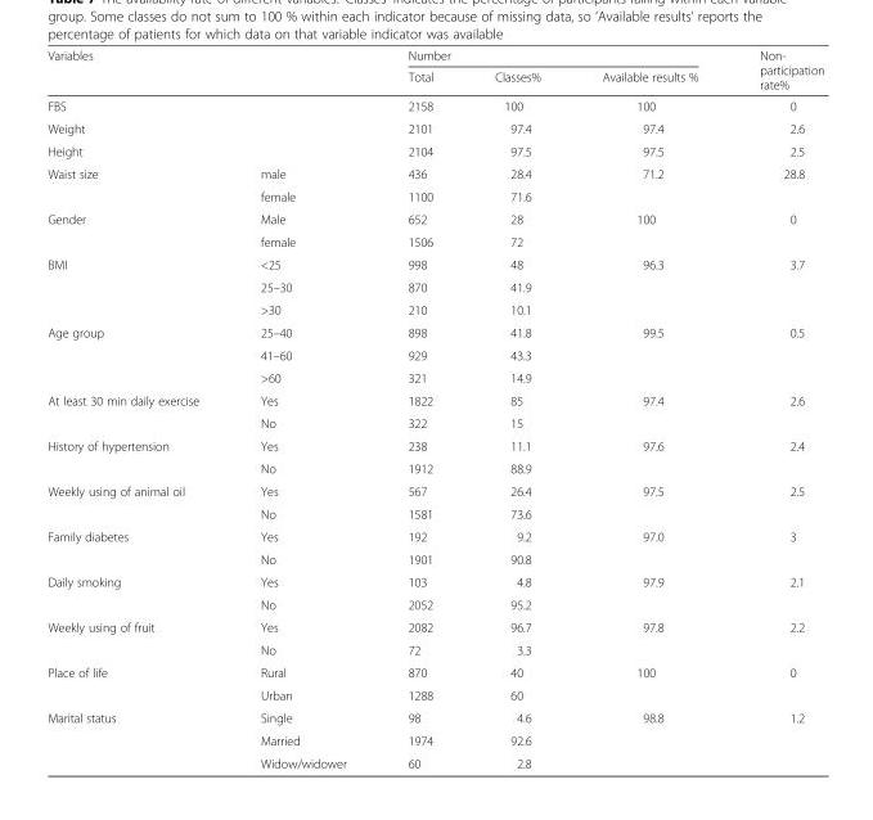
<table><thead><tr><td rowspan="2" colspan="2">Variables</td><td colspan="3">Number</td><td rowspan="2">Non- participation rate%</td></tr><tr><td>Total</td><td>Classes%</td><td>Available results %</td></tr></thead><tbody><tr><td colspan="2">FBS</td><td>2158</td><td>100</td><td>100</td><td>0</td></tr><tr><td colspan="2">Weight</td><td>2101</td><td>97.4</td><td>97.4</td><td>2.6</td></tr><tr><td colspan="2">Height</td><td>2104</td><td>97.5</td><td>97.5</td><td>2.5</td></tr><tr><td rowspan="2">Waist size</td><td>male</td><td>436</td><td>28.4</td><td rowspan="2">71.2</td><td rowspan="2">28.8</td></tr><tr><td>female</td><td>1100</td><td>71.6</td></tr><tr><td rowspan="2">Gender</td><td>Male</td><td>652</td><td>28</td><td rowspan="2">100</td><td rowspan="2">0</td></tr><tr><td>female</td><td>1506</td><td>72</td></tr><tr><td rowspan="3">BMI</td><td>&lt;25</td><td>998</td><td>48</td><td rowspan="3">96.3</td><td rowspan="3">3.7</td></tr><tr><td>25–30</td><td>870</td><td>41.9</td></tr><tr><td>&gt;30</td><td>210</td><td>10.1</td></tr><tr><td rowspan="3">Age group</td><td>25–40</td><td>898</td><td>41.8</td><td rowspan="3">99.5</td><td rowspan="3">0.5</td></tr><tr><td>41–60</td><td>929</td><td>43.3</td></tr><tr><td>&gt;60</td><td>321</td><td>14.9</td></tr><tr><td rowspan="2">At least 30 min daily exercise</td><td>Yes</td><td>1822</td><td>85</td><td rowspan="2">97.4</td><td rowspan="2">2.6</td></tr><tr><td>No</td><td>322</td><td>15</td></tr><tr><td rowspan="2">History of hypertension</td><td>Yes</td><td>238</td><td>11.1</td><td rowspan="2">97.6</td><td rowspan="2">2.4</td></tr><tr><td>No</td><td>1912</td><td>88.9</td></tr><tr><td rowspan="2">Weekly using of animal oil</td><td>Yes</td><td>567</td><td>26.4</td><td rowspan="2">97.5</td><td rowspan="2">2.5</td></tr><tr><td>No</td><td>1581</td><td>73.6</td></tr><tr><td rowspan="2">Family diabetes</td><td>Yes</td><td>192</td><td>9.2</td><td rowspan="2">97.0</td><td rowspan="2">3</td></tr><tr><td>No</td><td>1901</td><td>90.8</td></tr><tr><td rowspan="2">Daily smoking</td><td>Yes</td><td>103</td><td>4.8</td><td rowspan="2">97.9</td><td rowspan="2">2.1</td></tr><tr><td>No</td><td>2052</td><td>95.2</td></tr><tr><td rowspan="2">Weekly using of fruit</td><td>Yes</td><td>2082</td><td>96.7</td><td rowspan="2">97.8</td><td rowspan="2">2.2</td></tr><tr><td>No</td><td>72</td><td>3.3</td></tr><tr><td rowspan="2">Place of life</td><td>Rural</td><td>870</td><td>40</td><td rowspan="2">100</td><td rowspan="2">0</td></tr><tr><td>Urban</td><td>1288</td><td>60</td></tr><tr><td rowspan="3">Marital status</td><td>Single</td><td>98</td><td>4.6</td><td rowspan="3">98.8</td><td rowspan="3">1.2</td></tr><tr><td>Married</td><td>1974</td><td>92.6</td></tr><tr><td>Widow/widower</td><td>60</td><td>2.8</td></tr></tbody></table>